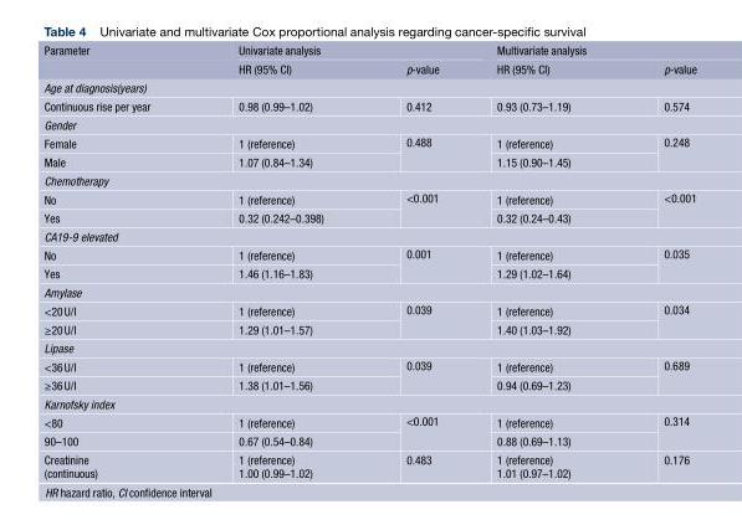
<table><thead><tr><td rowspan="2">Parameter</td><td colspan="2">Univariate analysis</td><td colspan="2">Multivariate analysis</td></tr><tr><td>HR (95% CI)</td><td>p-value</td><td>HR (95% CI)</td><td>p-value</td></tr></thead><tbody><tr><td colspan="5">Age at diagnosis(years)</td></tr><tr><td>Continuous rise per year</td><td>0.98 (0.99–1.02)</td><td>0.412</td><td>0.93 (0.73–1.19)</td><td>0.574</td></tr><tr><td colspan="5">Gender</td></tr><tr><td>Female</td><td>1 (reference)</td><td rowspan="2">0.488</td><td>1 (reference)</td><td rowspan="2">0.248</td></tr><tr><td>Male</td><td>1.07 (0.84–1.34)</td><td>1.15 (0.90–1.45)</td></tr><tr><td colspan="5">Chemotherapy</td></tr><tr><td>No</td><td>1 (reference)</td><td rowspan="2">&lt;0.001</td><td>1 (reference)</td><td rowspan="2">&lt;0.001</td></tr><tr><td>Yes</td><td>0.32 (0.242–0.398)</td><td>0.32 (0.24–0.43)</td></tr><tr><td colspan="5">CA19-9 elevated</td></tr><tr><td>No</td><td>1 (reference)</td><td rowspan="2">0.001</td><td>1 (reference)</td><td rowspan="2">0.035</td></tr><tr><td>Yes</td><td>1.46 (1.16–1.83)</td><td>1.29 (1.02–1.64)</td></tr><tr><td colspan="5">Amylase</td></tr><tr><td>&lt;20U/l</td><td>1 (reference)</td><td rowspan="2">0.039</td><td>1 (reference)</td><td rowspan="2">0.034</td></tr><tr><td>≥20U/l</td><td>1.29 (1.01–1.57)</td><td>1.40 (1.03–1.92)</td></tr><tr><td colspan="5">Lipase</td></tr><tr><td>&lt;36U/l</td><td>1 (reference)</td><td rowspan="2">0.039</td><td>1 (reference)</td><td rowspan="2">0.689</td></tr><tr><td>≥36U/l</td><td>1.38 (1.01–1.56)</td><td>0.94 (0.69–1.23)</td></tr><tr><td colspan="5">Karnofsky index</td></tr><tr><td>&lt;80</td><td>1 (reference)</td><td rowspan="2">&lt;0.001</td><td>1 (reference)</td><td rowspan="2">0.314</td></tr><tr><td>90–100</td><td>0.67 (0.54–0.84)</td><td>0.88 (0.69–1.13)</td></tr><tr><td>Creatinine (continuous)</td><td>1 (reference) 1.00 (0.99–1.02)</td><td>0.483</td><td>1 (reference) 1.01 (0.97–1.02)</td><td>0.176</td></tr></tbody></table>